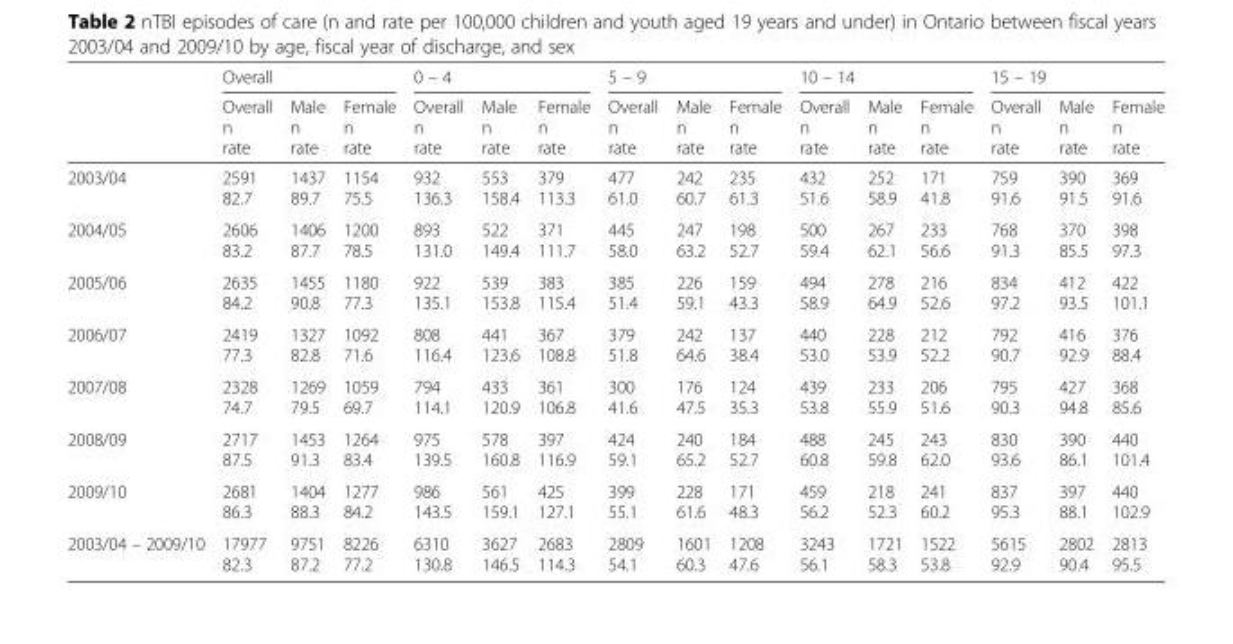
<table><thead><tr><td rowspan="2"></td><td colspan="3">Overall</td><td colspan="3">0 – 4</td><td colspan="3">5 – 9</td><td colspan="3">10 – 14</td><td colspan="3">15 – 19</td></tr><tr><td>Overall n rate</td><td>Male n rate</td><td>Female n rate</td><td>Overall n rate</td><td>Male n rate</td><td>Female n rate</td><td>Overall n rate</td><td>Male n rate</td><td>Female n rate</td><td>Overall n rate</td><td>Male n rate</td><td>Female n rate</td><td>Overall n rate</td><td>Male n rate</td><td>Female n rate</td></tr></thead><tbody><tr><td>2003/04</td><td>2591 82.7</td><td>1437 89.7</td><td>1154 75.5</td><td>932 136.3</td><td>553 158.4</td><td>379 113.3</td><td>477 61.0</td><td>242 60.7</td><td>235 61.3</td><td>432 51.6</td><td>252 58.9</td><td>171 41.8</td><td>759 91.6</td><td>390 91.5</td><td>369 91.6</td></tr><tr><td>2004/05</td><td>2606 83.2</td><td>1406 87.7</td><td>1200 78.5</td><td>893 131.0</td><td>522 149.4</td><td>371 111.7</td><td>445 58.0</td><td>247 63.2</td><td>198 52.7</td><td>500 59.4</td><td>267 62.1</td><td>233 56.6</td><td>768 91.3</td><td>370 85.5</td><td>398 97.3</td></tr><tr><td>2005/06</td><td>2635 84.2</td><td>1455 90.8</td><td>1180 77.3</td><td>922 135.1</td><td>539 153.8</td><td>383 115.4</td><td>385 51.4</td><td>226 59.1</td><td>159 43.3</td><td>494 58.9</td><td>278 64.9</td><td>216 52.6</td><td>834 97.2</td><td>412 93.5</td><td>422 101.1</td></tr><tr><td>2006/07</td><td>2419 77.3</td><td>1327 82.8</td><td>1092 71.6</td><td>808 116.4</td><td>441 123.6</td><td>367 108.8</td><td>379 51.8</td><td>242 64.6</td><td>137 38.4</td><td>440 53.0</td><td>228 53.9</td><td>212 52.2</td><td>792 90.7</td><td>416 92.9</td><td>376 88.4</td></tr><tr><td>2007/08</td><td>2328 74.7</td><td>1269 79.5</td><td>1059 69.7</td><td>794 114.1</td><td>433 120.9</td><td>361 106.8</td><td>300 41.6</td><td>176 47.5</td><td>124 35.3</td><td>439 53.8</td><td>233 55.9</td><td>206 51.6</td><td>795 90.3</td><td>427 94.8</td><td>368 85.6</td></tr><tr><td>2008/09</td><td>2717 87.5</td><td>1453 91.3</td><td>1264 83.4</td><td>975 139.5</td><td>578 160.8</td><td>397 116.9</td><td>424 59.1</td><td>240 65.2</td><td>184 52.7</td><td>488 60.8</td><td>245 59.8</td><td>243 62.0</td><td>830 93.6</td><td>390 86.1</td><td>440 101.4</td></tr><tr><td>2009/10</td><td>2681 86.3</td><td>1404 88.3</td><td>1277 84.2</td><td>986 143.5</td><td>561 159.1</td><td>425 127.1</td><td>399 55.1</td><td>228 61.6</td><td>171 48.3</td><td>459 56.2</td><td>218 52.3</td><td>241 60.2</td><td>837 95.3</td><td>397 88.1</td><td>440 102.9</td></tr><tr><td>2003/04 – 2009/10</td><td>17977 82.3</td><td>9751 87.2</td><td>8226 77.2</td><td>6310 130.8</td><td>3627 146.5</td><td>2683 114.3</td><td>2809 54.1</td><td>1601 60.3</td><td>1208 47.6</td><td>3243 56.1</td><td>1721 58.3</td><td>1522 53.8</td><td>5615 92.9</td><td>2802 90.4</td><td>2813 95.5</td></tr></tbody></table>